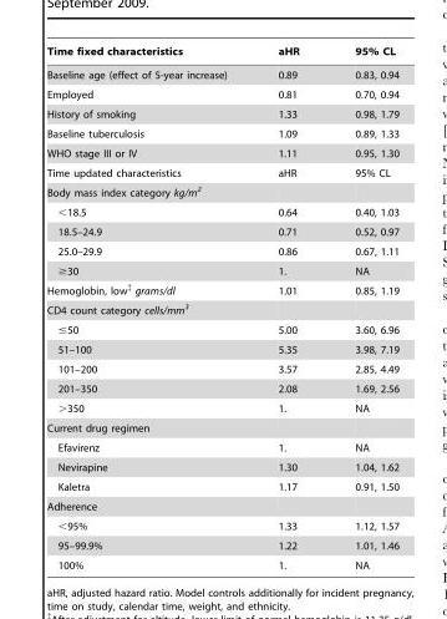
<table><thead><tr><td>Time fixed characteristics</td><td>aHR</td><td>95% CL</td></tr></thead><tbody><tr><td>Baseline age (effect of 5-year increase)</td><td>0.89</td><td>0.83, 0.94</td></tr><tr><td>Employed</td><td>0.81</td><td>0.70, 0.94</td></tr><tr><td>History of smoking</td><td>1.33</td><td>0.98, 1.79</td></tr><tr><td>Baseline tuberculosis</td><td>1.09</td><td>0.89, 1.33</td></tr><tr><td>WHO stage III or IV</td><td>1.11</td><td>0.95, 1.30</td></tr><tr><td>Time updated characteristics</td><td>aHR</td><td>95% CL</td></tr><tr><td colspan="3">Body mass index category kg/m<sup>2</sup></td></tr><tr><td>&lt;18.5</td><td>0.64</td><td>0.40, 1.03</td></tr><tr><td>18.5–24.9</td><td>0.71</td><td>0.52, 0.97</td></tr><tr><td>25.0–29.9</td><td>0.86</td><td>0.67, 1.11</td></tr><tr><td>≥30</td><td>1.</td><td>NA</td></tr><tr><td>Hemoglobin, low‡ grams/dl</td><td>1.01</td><td>0.85, 1.19</td></tr><tr><td colspan="3">CD4 count category cells/mm<sup>3</sup></td></tr><tr><td>≤50</td><td>5.00</td><td>3.60, 6.96</td></tr><tr><td>51–100</td><td>5.35</td><td>3.98, 7.19</td></tr><tr><td>101–200</td><td>3.57</td><td>2.85, 4.49</td></tr><tr><td>201–350</td><td>2.08</td><td>1.69, 2.56</td></tr><tr><td>&gt;350</td><td>1.</td><td>NA</td></tr><tr><td colspan="3">Current drug regimen</td></tr><tr><td>Efavirenz</td><td>1.</td><td>NA</td></tr><tr><td>Nevirapine</td><td>1.30</td><td>1.04, 1.62</td></tr><tr><td>Kaletra</td><td>1.17</td><td>0.91, 1.50</td></tr><tr><td colspan="3">Adherence</td></tr><tr><td>&lt;95%</td><td>1.33</td><td>1.12, 1.57</td></tr><tr><td>95–99.9%</td><td>1.22</td><td>1.01, 1.46</td></tr><tr><td>100%</td><td>1.</td><td>NA</td></tr></tbody></table>